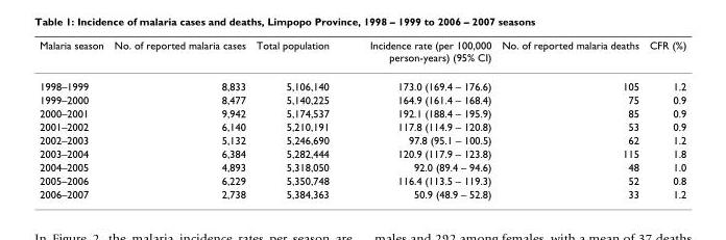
<table><thead><tr><td>Malaria season</td><td>No. of reported malaria cases</td><td>Total population</td><td>Incidence rate (per 100,000 person-years) (95% CI)</td><td>No. of reported malaria deaths</td><td>CFR (%)</td></tr></thead><tbody><tr><td>1998–1999</td><td>8,833</td><td>5,106,140</td><td>173.0 (169.4 – 176.6)</td><td>105</td><td>1.2</td></tr><tr><td>1999–2000</td><td>8,477</td><td>5,140,225</td><td>164.9 (161.4 – 168.4)</td><td>75</td><td>0.9</td></tr><tr><td>2000–2001</td><td>9,942</td><td>5,174,537</td><td>192.1 (188.4 – 195.9)</td><td>85</td><td>0.9</td></tr><tr><td>2001–2002</td><td>6,140</td><td>5,210,191</td><td>117.8 (114.9 – 120.8)</td><td>53</td><td>0.9</td></tr><tr><td>2002–2003</td><td>5,132</td><td>5,246,690</td><td>97.8 (95.1 – 100.5)</td><td>62</td><td>1.2</td></tr><tr><td>2003–2004</td><td>6,384</td><td>5,282,444</td><td>120.9 (117.9 – 123.8)</td><td>115</td><td>1.8</td></tr><tr><td>2004–2005</td><td>4,893</td><td>5,318,050</td><td>92.0 (89.4 – 94.6)</td><td>48</td><td>1.0</td></tr><tr><td>2005–2006</td><td>6,229</td><td>5,350,748</td><td>116.4 (113.5 – 119.3)</td><td>52</td><td>0.8</td></tr><tr><td>2006–2007</td><td>2,738</td><td>5,384,363</td><td>50.9 (48.9 – 52.8)</td><td>33</td><td>1.2</td></tr></tbody></table>